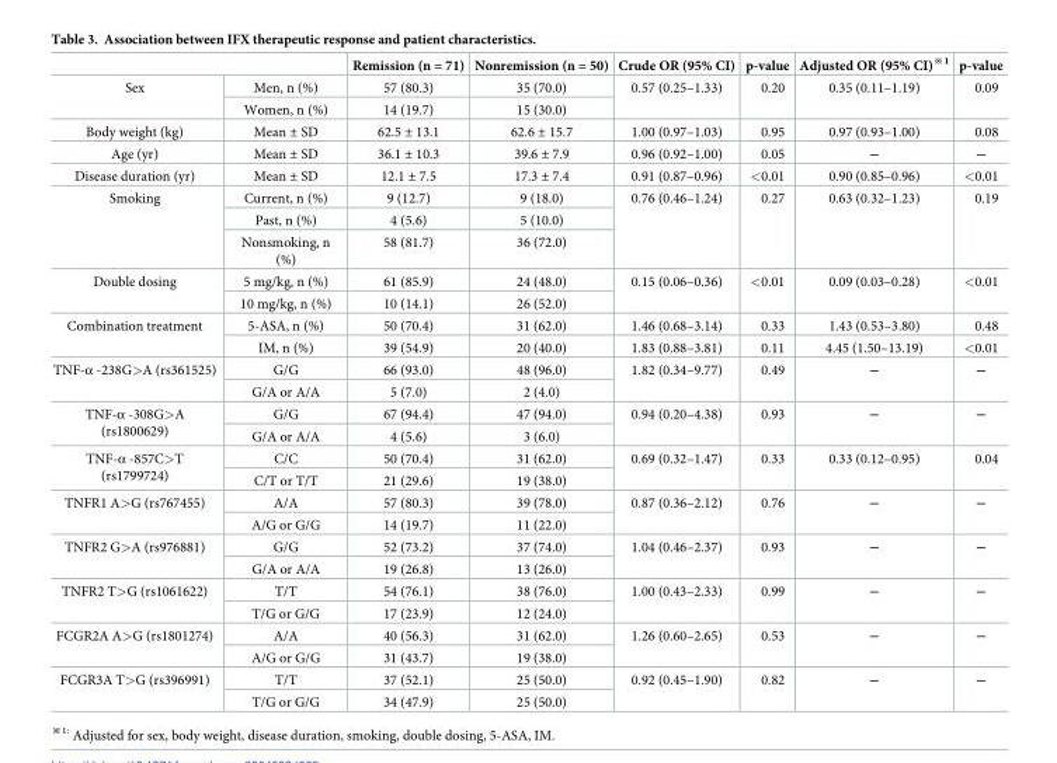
<table><thead><tr><td></td><td></td><td>Remission (n = 71)</td><td>Nonremission (n = 50)</td><td>Crude OR (95% CI)</td><td>p-value</td><td>Adjusted OR (95% CI)<sup>※1</sup></td><td>p-value</td></tr></thead><tbody><tr><td rowspan="2">Sex</td><td>Men, n (%)</td><td>57 (80.3)</td><td>35 (70.0)</td><td rowspan="2">0.57 (0.25–1.33)</td><td rowspan="2">0.20</td><td rowspan="2">0.35 (0.11–1.19)</td><td rowspan="2">0.09</td></tr><tr><td>Women, n (%)</td><td>14 (19.7)</td><td>15 (30.0)</td></tr><tr><td>Body weight (kg)</td><td>Mean ± SD</td><td>62.5 ± 13.1</td><td>62.6 ± 15.7</td><td>1.00 (0.97–1.03)</td><td>0.95</td><td>0.97 (0.93–1.00)</td><td>0.08</td></tr><tr><td>Age (yr)</td><td>Mean ± SD</td><td>36.1 ± 10.3</td><td>39.6 ± 7.9</td><td>0.96 (0.92–1.00)</td><td>0.05</td><td>―</td><td>―</td></tr><tr><td>Disease duration (yr)</td><td>Mean ± SD</td><td>12.1 ± 7.5</td><td>17.3 ± 7.4</td><td>0.91 (0.87–0.96)</td><td>&lt;0.01</td><td>0.90 (0.85–0.96)</td><td>&lt;0.01</td></tr><tr><td rowspan="3">Smoking</td><td>Current, n (%)</td><td>9 (12.7)</td><td>9 (18.0)</td><td rowspan="3">0.76 (0.46–1.24)</td><td rowspan="3">0.27</td><td rowspan="3">0.63 (0.32–1.23)</td><td rowspan="3">0.19</td></tr><tr><td>Past, n (%)</td><td>4 (5.6)</td><td>5 (10.0)</td></tr><tr><td>Nonsmoking, n (%)</td><td>58 (81.7)</td><td>36 (72.0)</td></tr><tr><td rowspan="2">Double dosing</td><td>5 mg/kg, n (%)</td><td>61 (85.9)</td><td>24 (48.0)</td><td rowspan="2">0.15 (0.06–0.36)</td><td rowspan="2">&lt;0.01</td><td rowspan="2">0.09 (0.03–0.28)</td><td rowspan="2">&lt;0.01</td></tr><tr><td>10 mg/kg, n (%)</td><td>10 (14.1)</td><td>26 (52.0)</td></tr><tr><td rowspan="2">Combination treatment</td><td>5-ASA, n (%)</td><td>50 (70.4)</td><td>31 (62.0)</td><td>1.46 (0.68–3.14)</td><td>0.33</td><td>1.43 (0.53–3.80)</td><td>0.48</td></tr><tr><td>IM, n (%)</td><td>39 (54.9)</td><td>20 (40.0)</td><td>1.83 (0.88–3.81)</td><td>0.11</td><td>4.45 (1.50–13.19)</td><td>&lt;0.01</td></tr><tr><td rowspan="2">TNF-α -238G&gt;A (rs361525)</td><td>G/G</td><td>66 (93.0)</td><td>48 (96.0)</td><td rowspan="2">1.82 (0.34–9.77)</td><td rowspan="2">0.49</td><td rowspan="2">―</td><td rowspan="2">―</td></tr><tr><td>G/A or A/A</td><td>5 (7.0)</td><td>2 (4.0)</td></tr><tr><td rowspan="2">TNF-α -308G&gt;A (rs1800629)</td><td>G/G</td><td>67 (94.4)</td><td>47 (94.0)</td><td rowspan="2">0.94 (0.20–4.38)</td><td rowspan="2">0.93</td><td rowspan="2">―</td><td rowspan="2">―</td></tr><tr><td>G/A or A/A</td><td>4 (5.6)</td><td>3 (6.0)</td></tr><tr><td rowspan="2">TNF-α -857C&gt;T (rs1799724)</td><td>C/C</td><td>50 (70.4)</td><td>31 (62.0)</td><td rowspan="2">0.69 (0.32–1.47)</td><td rowspan="2">0.33</td><td rowspan="2">0.33 (0.12–0.95)</td><td rowspan="2">0.04</td></tr><tr><td>C/T or T/T</td><td>21 (29.6)</td><td>19 (38.0)</td></tr><tr><td rowspan="2">TNFR1 A&gt;G (rs767455)</td><td>A/A</td><td>57 (80.3)</td><td>39 (78.0)</td><td rowspan="2">0.87 (0.36–2.12)</td><td rowspan="2">0.76</td><td rowspan="2">―</td><td rowspan="2">―</td></tr><tr><td>A/G or G/G</td><td>14 (19.7)</td><td>11 (22.0)</td></tr><tr><td rowspan="2">TNFR2 G&gt;A (rs976881)</td><td>G/G</td><td>52 (73.2)</td><td>37 (74.0)</td><td rowspan="2">1.04 (0.46–2.37)</td><td rowspan="2">0.93</td><td rowspan="2">―</td><td rowspan="2">―</td></tr><tr><td>G/A or A/A</td><td>19 (26.8)</td><td>13 (26.0)</td></tr><tr><td rowspan="2">TNFR2 T&gt;G (rs1061622)</td><td>T/T</td><td>54 (76.1)</td><td>38 (76.0)</td><td rowspan="2">1.00 (0.43–2.33)</td><td rowspan="2">0.99</td><td rowspan="2">―</td><td rowspan="2">―</td></tr><tr><td>T/G or G/G</td><td>17 (23.9)</td><td>12 (24.0)</td></tr><tr><td rowspan="2">FCGR2A A&gt;G (rs1801274)</td><td>A/A</td><td>40 (56.3)</td><td>31 (62.0)</td><td rowspan="2">1.26 (0.60–2.65)</td><td rowspan="2">0.53</td><td rowspan="2">―</td><td rowspan="2">―</td></tr><tr><td>A/G or G/G</td><td>31 (43.7)</td><td>19 (38.0)</td></tr><tr><td rowspan="2">FCGR3A T&gt;G (rs396991)</td><td>T/T</td><td>37 (52.1)</td><td>25 (50.0)</td><td rowspan="2">0.92 (0.45–1.90)</td><td rowspan="2">0.82</td><td rowspan="2">―</td><td rowspan="2">―</td></tr><tr><td>T/G or G/G</td><td>34 (47.9)</td><td>25 (50.0)</td></tr></tbody></table>